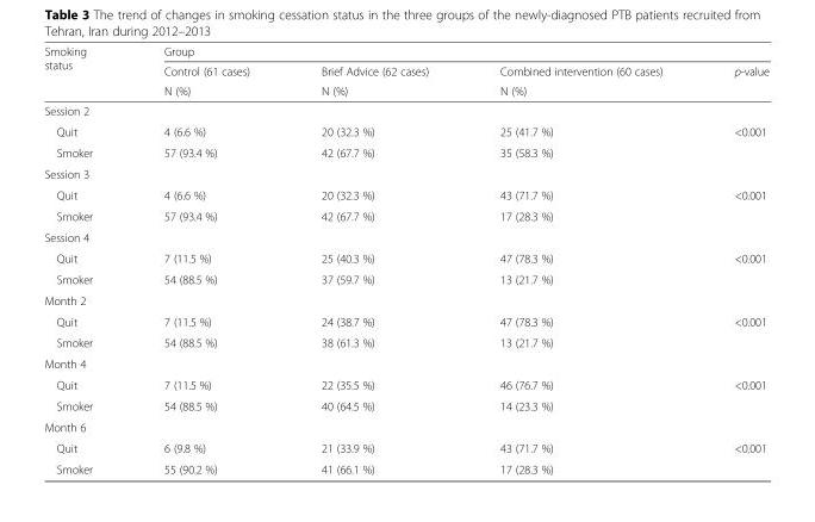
<table><thead><tr><td rowspan="3">Smoking status</td><td colspan="4">Group</td></tr><tr><td rowspan="2">Control (61 cases) N (%)</td><td rowspan="2">Brief Advice (62 cases) N (%)</td><td rowspan="2">Combined intervention (60 cases) N (%)</td><td rowspan="2">p-value</td></tr><tr></tr></thead><tbody><tr><td colspan="5">Session 2</td></tr><tr><td>Quit</td><td>4 (6.6 %)</td><td>20 (32.3 %)</td><td>25 (41.7 %)</td><td rowspan="2">&lt;0.001</td></tr><tr><td>Smoker</td><td>57 (93.4 %)</td><td>42 (67.7 %)</td><td>35 (58.3 %)</td></tr><tr><td colspan="5">Session 3</td></tr><tr><td>Quit</td><td>4 (6.6 %)</td><td>20 (32.3 %)</td><td>43 (71.7 %)</td><td rowspan="2">&lt;0.001</td></tr><tr><td>Smoker</td><td>57 (93.4 %)</td><td>42 (67.7 %)</td><td>17 (28.3 %)</td></tr><tr><td colspan="5">Session 4</td></tr><tr><td>Quit</td><td>7 (11.5 %)</td><td>25 (40.3 %)</td><td>47 (78.3 %)</td><td rowspan="2">&lt;0.001</td></tr><tr><td>Smoker</td><td>54 (88.5 %)</td><td>37 (59.7 %)</td><td>13 (21.7 %)</td></tr><tr><td colspan="5">Month 2</td></tr><tr><td>Quit</td><td>7 (11.5 %)</td><td>24 (38.7 %)</td><td>47 (78.3 %)</td><td rowspan="2">&lt;0.001</td></tr><tr><td>Smoker</td><td>54 (88.5 %)</td><td>38 (61.3 %)</td><td>13 (21.7 %)</td></tr><tr><td colspan="5">Month 4</td></tr><tr><td>Quit</td><td>7 (11.5 %)</td><td>22 (35.5 %)</td><td>46 (76.7 %)</td><td rowspan="2">&lt;0.001</td></tr><tr><td>Smoker</td><td>54 (88.5 %)</td><td>40 (64.5 %)</td><td>14 (23.3 %)</td></tr><tr><td colspan="5">Month 6</td></tr><tr><td>Quit</td><td>6 (9.8 %)</td><td>21 (33.9 %)</td><td>43 (71.7 %)</td><td rowspan="2">&lt;0.001</td></tr><tr><td>Smoker</td><td>55 (90.2 %)</td><td>41 (66.1 %)</td><td>17 (28.3 %)</td></tr></tbody></table>